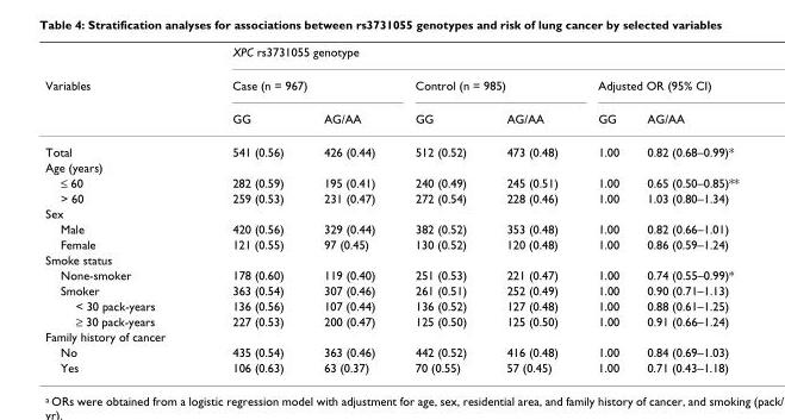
<table><thead><tr><td rowspan="3">Variables</td><td colspan="6">XPC rs3731055 genotype</td></tr><tr><td colspan="2">Case (n = 967)</td><td colspan="2">Control (n = 985)</td><td colspan="2">Adjusted OR (95% CI)</td></tr><tr><td>GG</td><td>AG/AA</td><td>GG</td><td>AG/AA</td><td>GG</td><td>AG/AA</td></tr></thead><tbody><tr><td>Total</td><td>541 (0.56)</td><td>426 (0.44)</td><td>512 (0.52)</td><td>473 (0.48)</td><td>1.00</td><td>0.82 (0.68–0.99)*</td></tr><tr><td colspan="7">Age (years)</td></tr><tr><td>≤ 60</td><td>282 (0.59)</td><td>195 (0.41)</td><td>240 (0.49)</td><td>245 (0.51)</td><td>1.00</td><td>0.65 (0.50–0.85)**</td></tr><tr><td>&gt; 60</td><td>259 (0.53)</td><td>231 (0.47)</td><td>272 (0.54)</td><td>228 (0.46)</td><td>1.00</td><td>1.03 (0.80–1.34)</td></tr><tr><td colspan="7">Sex</td></tr><tr><td>Male</td><td>420 (0.56)</td><td>329 (0.44)</td><td>382 (0.52)</td><td>353 (0.48)</td><td>1.00</td><td>0.82 (0.66–1.01)</td></tr><tr><td>Female</td><td>121 (0.55)</td><td>97 (0.45)</td><td>130 (0.52)</td><td>120 (0.48)</td><td>1.00</td><td>0.86 (0.59–1.24)</td></tr><tr><td colspan="7">Smoke status</td></tr><tr><td>None-smoker</td><td>178 (0.60)</td><td>119 (0.40)</td><td>251 (0.53)</td><td>221 (0.47)</td><td>1.00</td><td>0.74 (0.55–0.99)*</td></tr><tr><td>Smoker</td><td>363 (0.54)</td><td>307 (0.46)</td><td>261 (0.51)</td><td>252 (0.49)</td><td>1.00</td><td>0.90 (0.71–1.13)</td></tr><tr><td>&lt; 30 pack-years</td><td>136 (0.56)</td><td>107 (0.44)</td><td>136 (0.52)</td><td>127 (0.48)</td><td>1.00</td><td>0.88 (0.61–1.25)</td></tr><tr><td>≥ 30 pack-years</td><td>227 (0.53)</td><td>200 (0.47)</td><td>125 (0.50)</td><td>125 (0.50)</td><td>1.00</td><td>0.91 (0.66–1.24)</td></tr><tr><td colspan="7">Family history of cancer</td></tr><tr><td>No</td><td>435 (0.54)</td><td>363 (0.46)</td><td>442 (0.52)</td><td>416 (0.48)</td><td>1.00</td><td>0.84 (0.69–1.03)</td></tr><tr><td>Yes</td><td>106 (0.63)</td><td>63 (0.37)</td><td>70 (0.55)</td><td>57 (0.45)</td><td>1.00</td><td>0.71 (0.43–1.18)</td></tr></tbody></table>